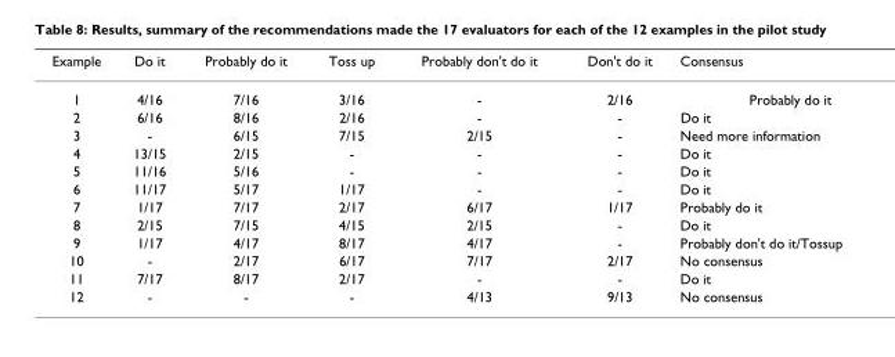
<table><thead><tr><td>Example</td><td>Do it</td><td>Probably do it</td><td>Toss up</td><td>Probably don&#x27;t do it</td><td>Don&#x27;t do it</td><td>Consensus</td></tr></thead><tbody><tr><td>1</td><td>4/16</td><td>7/16</td><td>3/16</td><td>-</td><td>2/16</td><td>Probably do it</td></tr><tr><td>2</td><td>6/16</td><td>8/16</td><td>2/16</td><td>-</td><td>-</td><td>Do it</td></tr><tr><td>3</td><td>-</td><td>6/15</td><td>7/15</td><td>2/15</td><td>-</td><td>Need more information</td></tr><tr><td>4</td><td>13/15</td><td>2/15</td><td>-</td><td>-</td><td>-</td><td>Do it</td></tr><tr><td>5</td><td>11/16</td><td>5/16</td><td>-</td><td>-</td><td>-</td><td>Do it</td></tr><tr><td>6</td><td>11/17</td><td>5/17</td><td>1/17</td><td>-</td><td>-</td><td>Do it</td></tr><tr><td>7</td><td>1/17</td><td>7/17</td><td>2/17</td><td>6/17</td><td>1/17</td><td>Probably do it</td></tr><tr><td>8</td><td>2/15</td><td>7/15</td><td>4/15</td><td>2/15</td><td>-</td><td>Do it</td></tr><tr><td>9</td><td>1/17</td><td>4/17</td><td>8/17</td><td>4/17</td><td>-</td><td>Probably don&#x27;t do it/Tossup</td></tr><tr><td>10</td><td>-</td><td>2/17</td><td>6/17</td><td>7/17</td><td>2/17</td><td>No consensus</td></tr><tr><td>11</td><td>7/17</td><td>8/17</td><td>2/17</td><td>-</td><td>-</td><td>Do it</td></tr><tr><td>12</td><td>-</td><td>-</td><td>-</td><td>4/13</td><td>9/13</td><td>No consensus</td></tr></tbody></table>